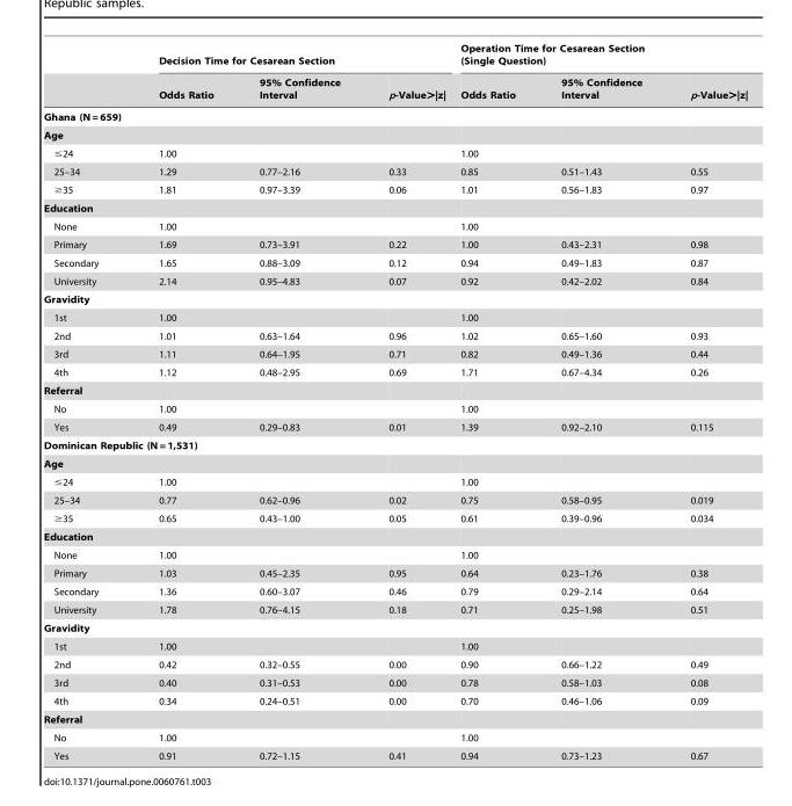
<table><thead><tr><td rowspan="2"></td><td colspan="3">Decision Time for Cesarean Section</td><td colspan="3">Operation Time for Cesarean Section (Single Question)</td></tr><tr><td>Odds Ratio</td><td>95% Confidence Interval</td><td>p-Value&gt;|z|</td><td>Odds Ratio</td><td>95% Confidence Interval</td><td>p-Value&gt;|z|</td></tr></thead><tbody><tr><td colspan="7">Ghana (N = 659)</td></tr><tr><td colspan="7">Age</td></tr><tr><td>≤24</td><td>1.00</td><td></td><td></td><td>1.00</td><td></td><td></td></tr><tr><td>25–34</td><td>1.29</td><td>0.77–2.16</td><td>0.33</td><td>0.85</td><td>0.51–1.43</td><td>0.55</td></tr><tr><td>≥35</td><td>1.81</td><td>0.97–3.39</td><td>0.06</td><td>1.01</td><td>0.56–1.83</td><td>0.97</td></tr><tr><td colspan="7">Education</td></tr><tr><td>None</td><td>1.00</td><td></td><td></td><td>1.00</td><td></td><td></td></tr><tr><td>Primary</td><td>1.69</td><td>0.73–3.91</td><td>0.22</td><td>1.00</td><td>0.43–2.31</td><td>0.98</td></tr><tr><td>Secondary</td><td>1.65</td><td>0.88–3.09</td><td>0.12</td><td>0.94</td><td>0.49–1.83</td><td>0.87</td></tr><tr><td>University</td><td>2.14</td><td>0.95–4.83</td><td>0.07</td><td>0.92</td><td>0.42–2.02</td><td>0.84</td></tr><tr><td colspan="7">Gravidity</td></tr><tr><td>1st</td><td>1.00</td><td></td><td></td><td>1.00</td><td></td><td></td></tr><tr><td>2nd</td><td>1.01</td><td>0.63–1.64</td><td>0.96</td><td>1.02</td><td>0.65–1.60</td><td>0.93</td></tr><tr><td>3rd</td><td>1.11</td><td>0.64–1.95</td><td>0.71</td><td>0.82</td><td>0.49–1.36</td><td>0.44</td></tr><tr><td>4th</td><td>1.12</td><td>0.48–2.95</td><td>0.69</td><td>1.71</td><td>0.67–4.34</td><td>0.26</td></tr><tr><td colspan="7">Referral</td></tr><tr><td>No</td><td>1.00</td><td></td><td></td><td>1.00</td><td></td><td></td></tr><tr><td>Yes</td><td>0.49</td><td>0.29–0.83</td><td>0.01</td><td>1.39</td><td>0.92–2.10</td><td>0.115</td></tr><tr><td colspan="7">Dominican Republic (N = 1,531)</td></tr><tr><td colspan="7">Age</td></tr><tr><td>≤24</td><td>1.00</td><td></td><td></td><td>1.00</td><td></td><td></td></tr><tr><td>25–34</td><td>0.77</td><td>0.62–0.96</td><td>0.02</td><td>0.75</td><td>0.58–0.95</td><td>0.019</td></tr><tr><td>≥35</td><td>0.65</td><td>0.43–1.00</td><td>0.05</td><td>0.61</td><td>0.39–0.96</td><td>0.034</td></tr><tr><td colspan="7">Education</td></tr><tr><td>None</td><td>1.00</td><td></td><td></td><td>1.00</td><td></td><td></td></tr><tr><td>Primary</td><td>1.03</td><td>0.45–2.35</td><td>0.95</td><td>0.64</td><td>0.23–1.76</td><td>0.38</td></tr><tr><td>Secondary</td><td>1.36</td><td>0.60–3.07</td><td>0.46</td><td>0.79</td><td>0.29–2.14</td><td>0.64</td></tr><tr><td>University</td><td>1.78</td><td>0.76–4.15</td><td>0.18</td><td>0.71</td><td>0.25–1.98</td><td>0.51</td></tr><tr><td colspan="7">Gravidity</td></tr><tr><td>1st</td><td>1.00</td><td></td><td></td><td>1.00</td><td></td><td></td></tr><tr><td>2nd</td><td>0.42</td><td>0.32–0.55</td><td>0.00</td><td>0.90</td><td>0.66–1.22</td><td>0.49</td></tr><tr><td>3rd</td><td>0.40</td><td>0.31–0.53</td><td>0.00</td><td>0.78</td><td>0.58–1.03</td><td>0.08</td></tr><tr><td>4th</td><td>0.34</td><td>0.24–0.51</td><td>0.00</td><td>0.70</td><td>0.46–1.06</td><td>0.09</td></tr><tr><td colspan="7">Referral</td></tr><tr><td>No</td><td>1.00</td><td></td><td></td><td>1.00</td><td></td><td></td></tr><tr><td>Yes</td><td>0.91</td><td>0.72–1.15</td><td>0.41</td><td>0.94</td><td>0.73–1.23</td><td>0.67</td></tr></tbody></table>